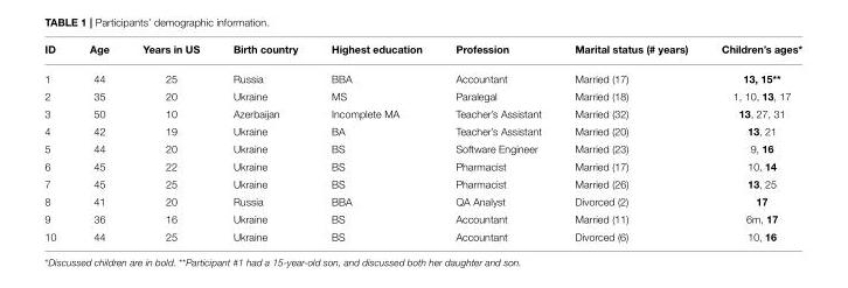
<table><thead><tr><td>ID</td><td>Age</td><td>Years in US</td><td>Birth country</td><td>Highest education</td><td>Profession</td><td>Marital status (# years)</td><td>Children’s ages*</td></tr></thead><tbody><tr><td>1</td><td>44</td><td>25</td><td>Russia</td><td>BBA</td><td>Accountant</td><td>Married (17)</td><td>13, 15**</td></tr><tr><td>2</td><td>35</td><td>20</td><td>Ukraine</td><td>MS</td><td>Paralegal</td><td>Married (18)</td><td>1, 10, 13, 17</td></tr><tr><td>3</td><td>50</td><td>10</td><td>Azerbaijan</td><td>Incomplete MA</td><td>Teacher’s Assistant</td><td>Married (32)</td><td>13, 27, 31</td></tr><tr><td>4</td><td>42</td><td>19</td><td>Ukraine</td><td>BA</td><td>Teacher’s Assistant</td><td>Married (20)</td><td>13, 21</td></tr><tr><td>5</td><td>44</td><td>20</td><td>Ukraine</td><td>BS</td><td>Software Engineer</td><td>Married (23)</td><td>9, 16</td></tr><tr><td>6</td><td>45</td><td>22</td><td>Ukraine</td><td>BS</td><td>Pharmacist</td><td>Married (17)</td><td>10, 14</td></tr><tr><td>7</td><td>45</td><td>25</td><td>Ukraine</td><td>BS</td><td>Pharmacist</td><td>Married (26)</td><td>13, 25</td></tr><tr><td>8</td><td>41</td><td>20</td><td>Russia</td><td>BBA</td><td>QA Analyst</td><td>Divorced (2)</td><td>17</td></tr><tr><td>9</td><td>36</td><td>16</td><td>Ukraine</td><td>BS</td><td>Accountant</td><td>Married (11)</td><td>6m, 17</td></tr><tr><td>10</td><td>44</td><td>25</td><td>Ukraine</td><td>BS</td><td>Accountant</td><td>Divorced (6)</td><td>10, 16</td></tr></tbody></table>